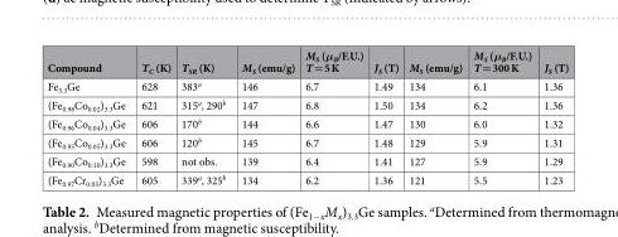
<table><thead><tr><td>Compound</td><td>T<sub>C</sub> (K)</td><td>T<sub>SR</sub> (K)</td><td>M<sub>S</sub> (emu/g)</td><td>M<sub>S</sub> (μ<sub>B</sub>/F.U.) T = 5 K</td><td>J<sub>S</sub> (T)</td><td>M<sub>S</sub> (emu/g)</td><td>M<sub>S</sub> (μ<sub>B</sub>/F.U.) T = 300 K</td><td>J<sub>S</sub> (T)</td></tr></thead><tbody><tr><td>Fe<sub>3.3</sub>Ge</td><td>628</td><td>383<sup>a</sup></td><td>146</td><td>6.7</td><td>1.49</td><td>134</td><td>6.1</td><td>1.36</td></tr><tr><td>(Fe<sub>0.98</sub>Co<sub>0.02</sub>)<sub>3.3</sub>Ge</td><td>621</td><td>315<sup>a</sup>, 290<sup>b</sup></td><td>147</td><td>6.8</td><td>1.50</td><td>134</td><td>6.2</td><td>1.36</td></tr><tr><td>(Fe<sub>0.96</sub>Co<sub>0.04</sub>)<sub>3.3</sub>Ge</td><td>606</td><td>170<sup>b</sup></td><td>144</td><td>6.6</td><td>1.47</td><td>130</td><td>6.0</td><td>1.32</td></tr><tr><td>(Fe<sub>0.95</sub>Co<sub>0.05</sub>)<sub>3.3</sub>Ge</td><td>606</td><td>120<sup>b</sup></td><td>145</td><td>6.7</td><td>1.48</td><td>129</td><td>5.9</td><td>1.31</td></tr><tr><td>(Fe<sub>0.90</sub>Co<sub>0.10</sub>)<sub>3.3</sub>Ge</td><td>598</td><td>not obs.</td><td>139</td><td>6.4</td><td>1.41</td><td>127</td><td>5.9</td><td>1.29</td></tr><tr><td>(Fe<sub>0.97</sub>Cr<sub>0.03</sub>)<sub>3.3</sub>Ge</td><td>605</td><td>339<sup>a</sup>, 325<sup>b</sup></td><td>134</td><td>6.2</td><td>1.36</td><td>121</td><td>5.5</td><td>1.23</td></tr></tbody></table>